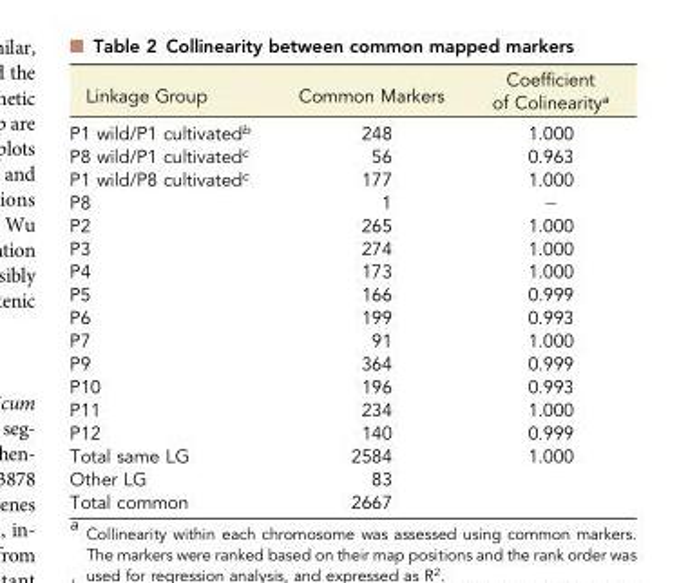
<table><thead><tr><td>Linkage Group</td><td>Common Markers</td><td>Coefficient of Colinearity<sup>a</sup></td></tr></thead><tbody><tr><td>P1 wild/P1 cultivated<sup>b</sup></td><td>248</td><td>1.000</td></tr><tr><td>P8 wild/P1 cultivated<sup>c</sup></td><td>56</td><td>0.963</td></tr><tr><td>P1 wild/P8 cultivated<sup>c</sup></td><td>177</td><td>1.000</td></tr><tr><td>P8</td><td>1</td><td>−</td></tr><tr><td>P2</td><td>265</td><td>1.000</td></tr><tr><td>P3</td><td>274</td><td>1.000</td></tr><tr><td>P4</td><td>173</td><td>1.000</td></tr><tr><td>P5</td><td>166</td><td>0.999</td></tr><tr><td>P6</td><td>199</td><td>0.993</td></tr><tr><td>P7</td><td>91</td><td>1.000</td></tr><tr><td>P9</td><td>364</td><td>0.999</td></tr><tr><td>P10</td><td>196</td><td>0.993</td></tr><tr><td>P11</td><td>234</td><td>1.000</td></tr><tr><td>P12</td><td>140</td><td>0.999</td></tr><tr><td>Total same LG</td><td>2584</td><td>1.000</td></tr><tr><td>Other LG</td><td>83</td><td></td></tr><tr><td>Total common</td><td>2667</td><td></td></tr></tbody></table>